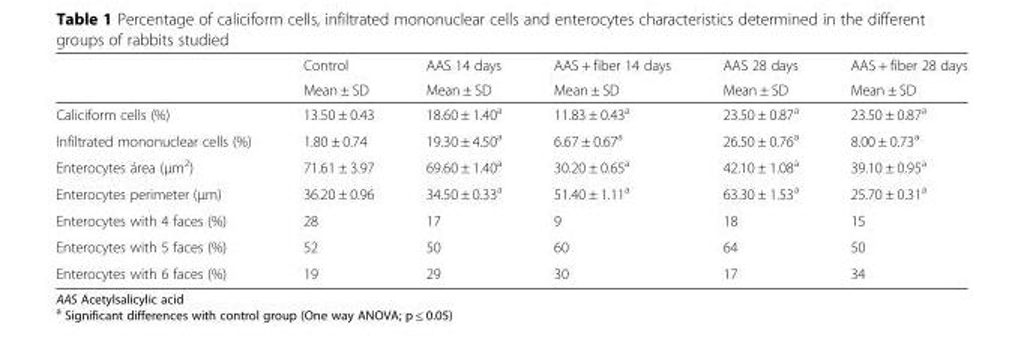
<table><thead><tr><td rowspan="2"></td><td rowspan="2">Control Mean ± SD</td><td rowspan="2">AAS 14 days Mean ± SD</td><td rowspan="2">AAS + fiber 14 days Mean ± SD</td><td rowspan="2">AAS 28 days Mean ± SD</td><td rowspan="2">AAS + fiber 28 days Mean ± SD</td></tr><tr></tr></thead><tbody><tr><td>Caliciform cells (%)</td><td>13.50 ± 0.43</td><td>18.60 ± 1.40<sup>a</sup></td><td>11.83 ± 0.43<sup>a</sup></td><td>23.50 ± 0.87<sup>a</sup></td><td>23.50 ± 0.87<sup>a</sup></td></tr><tr><td>Infiltrated mononuclear cells (%)</td><td>1.80 ± 0.74</td><td>19.30 ± 4.50<sup>a</sup></td><td>6.67 ± 0.67<sup>a</sup></td><td>26.50 ± 0.76<sup>a</sup></td><td>8.00 ± 0.73<sup>a</sup></td></tr><tr><td>Enterocytes área (μm<sup>2</sup>)</td><td>71.61 ± 3.97</td><td>69.60 ± 1.40<sup>a</sup></td><td>30.20 ± 0.65<sup>a</sup></td><td>42.10 ± 1.08<sup>a</sup></td><td>39.10 ± 0.95<sup>a</sup></td></tr><tr><td>Enterocytes perimeter (μm)</td><td>36.20 ± 0.96</td><td>34.50 ± 0.33<sup>a</sup></td><td>51.40 ± 1.11<sup>a</sup></td><td>63.30 ± 1.53<sup>a</sup></td><td>25.70 ± 0.31<sup>a</sup></td></tr><tr><td>Enterocytes with 4 faces (%)</td><td>28</td><td>17</td><td>9</td><td>18</td><td>15</td></tr><tr><td>Enterocytes with 5 faces (%)</td><td>52</td><td>50</td><td>60</td><td>64</td><td>50</td></tr><tr><td>Enterocytes with 6 faces (%)</td><td>19</td><td>29</td><td>30</td><td>17</td><td>34</td></tr></tbody></table>